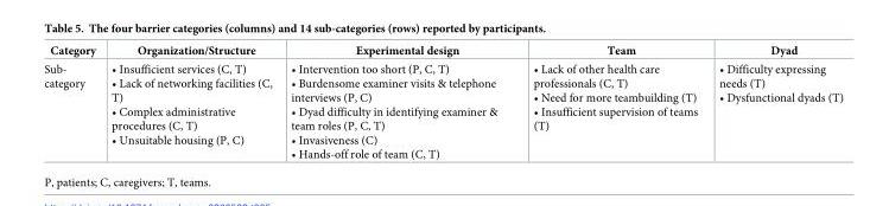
<table><thead><tr><td>Category</td><td>Organization/Structure</td><td>Experimental design</td><td>Team</td><td>Dyad</td></tr></thead><tbody><tr><td>Sub- category</td><td>• Insufficient services (C, T) • Lack of networking facilities (C, T) • Complex administrative procedures (C, T) • Unsuitable housing (P, C)</td><td>• Intervention too short (P, C, T) • Burdensome examiner visits &amp; telephone interviews (P, C) • Dyad difficulty in identifying examiner &amp; team roles (P, C, T) • Invasiveness (C) • Hands-off role of team (C, T)</td><td>• Lack of other health care professionals (C, T) • Need for more teambuilding (T) • Insufficient supervision of teams (T)</td><td>• Difficulty expressing needs (T) • Dysfunctional dyads (T)</td></tr></tbody></table>